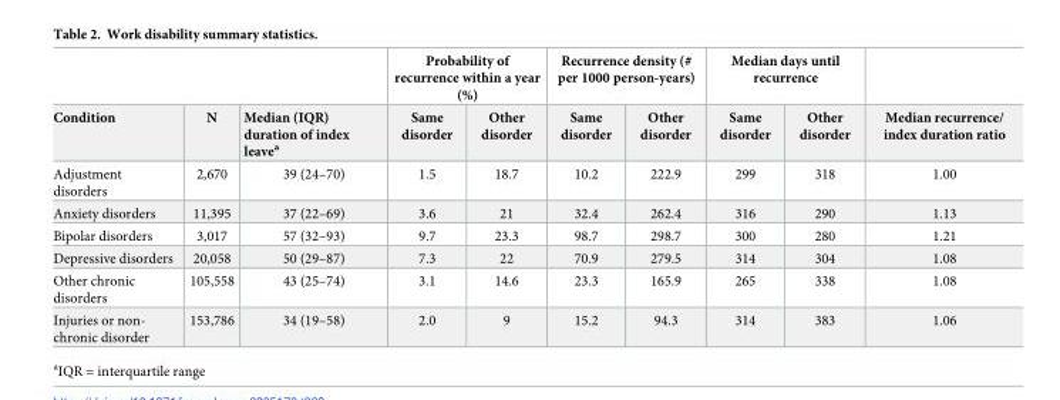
<table><thead><tr><td rowspan="2">Condition</td><td rowspan="2">N</td><td rowspan="2">Median (IQR) duration of index leave<sup>a</sup></td><td colspan="2">Probability of recurrence within a year (%)</td><td colspan="2">Recurrence density (# per 1000 person-years)</td><td colspan="2">Median days until recurrence</td><td rowspan="2">Median recurrence/ index duration ratio</td></tr><tr><td>Same disorder</td><td>Other disorder</td><td>Same disorder</td><td>Other disorder</td><td>Same disorder</td><td>Other disorder</td></tr></thead><tbody><tr><td>Adjustment disorders</td><td>2,670</td><td>39 (24–70)</td><td>1.5</td><td>18.7</td><td>10.2</td><td>222.9</td><td>299</td><td>318</td><td>1.00</td></tr><tr><td>Anxiety disorders</td><td>11,395</td><td>37 (22–69)</td><td>3.6</td><td>21</td><td>32.4</td><td>262.4</td><td>316</td><td>290</td><td>1.13</td></tr><tr><td>Bipolar disorders</td><td>3,017</td><td>57 (32–93)</td><td>9.7</td><td>23.3</td><td>98.7</td><td>298.7</td><td>300</td><td>280</td><td>1.21</td></tr><tr><td>Depressive disorders</td><td>20,058</td><td>50 (29–87)</td><td>7.3</td><td>22</td><td>70.9</td><td>279.5</td><td>314</td><td>304</td><td>1.08</td></tr><tr><td>Other chronic disorders</td><td>105,558</td><td>43 (25–74)</td><td>3.1</td><td>14.6</td><td>23.3</td><td>165.9</td><td>265</td><td>338</td><td>1.08</td></tr><tr><td>Injuries or non- chronic disorder</td><td>153,786</td><td>34 (19–58)</td><td>2.0</td><td>9</td><td>15.2</td><td>94.3</td><td>314</td><td>383</td><td>1.06</td></tr></tbody></table>